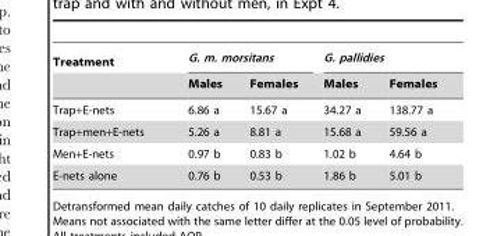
<table><thead><tr><td rowspan="2">Treatment</td><td colspan="2">G. m. morsitans</td><td colspan="2">G. pallidies</td></tr><tr><td>Males</td><td>Females</td><td>Males</td><td>Females</td></tr></thead><tbody><tr><td>Trap+E-nets</td><td>6.86 a</td><td>15.67 a</td><td>34.27 a</td><td>138.77 a</td></tr><tr><td>Trap+men+E-nets</td><td>5.26 a</td><td>8.81 a</td><td>15.68 a</td><td>59.56 a</td></tr><tr><td>Men+E-nets</td><td>0.97 b</td><td>0.83 b</td><td>1.02 b</td><td>4.64 b</td></tr><tr><td>E-nets alone</td><td>0.76 b</td><td>0.53 b</td><td>1.86 b</td><td>5.01 b</td></tr></tbody></table>